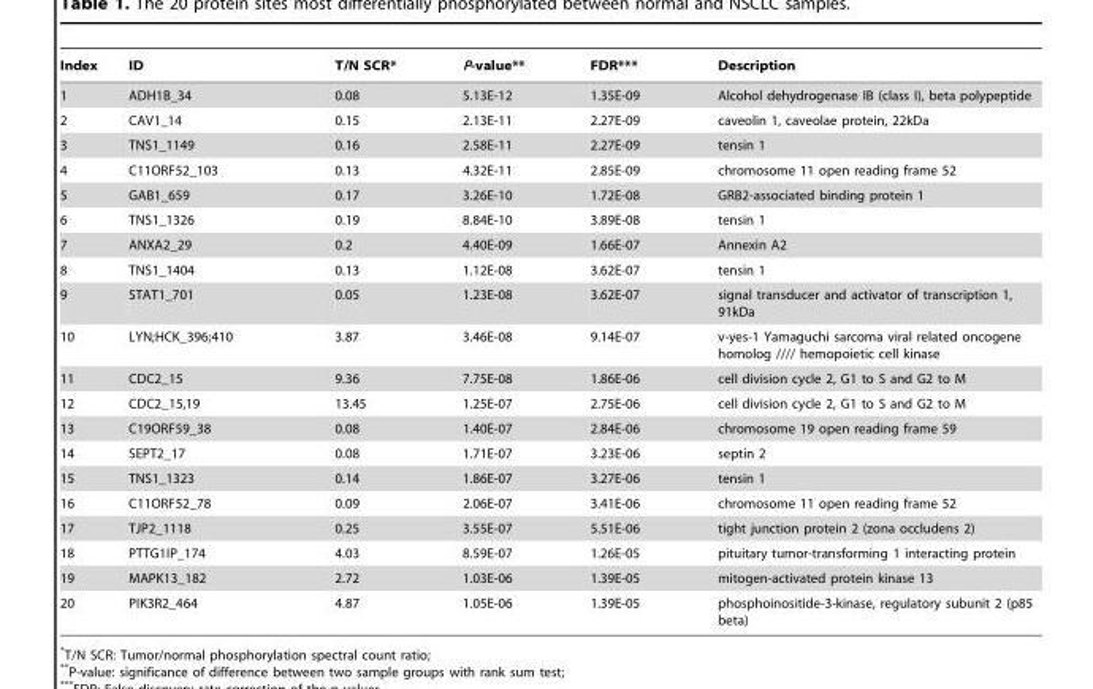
<table><thead><tr><td>Index</td><td>ID</td><td>T/N SCR*</td><td>P-value**</td><td>FDR***</td><td>Description</td></tr></thead><tbody><tr><td>1</td><td>ADH1B_34</td><td>0.08</td><td>5.13E-12</td><td>1.35E-09</td><td>Alcohol dehydrogenase IB (class I), beta polypeptide</td></tr><tr><td>2</td><td>CAV1_14</td><td>0.15</td><td>2.13E-11</td><td>2.27E-09</td><td>caveolin 1, caveolae protein, 22kDa</td></tr><tr><td>3</td><td>TNS1_1149</td><td>0.16</td><td>2.58E-11</td><td>2.27E-09</td><td>tensin 1</td></tr><tr><td>4</td><td>C11ORF52_103</td><td>0.13</td><td>4.32E-11</td><td>2.85E-09</td><td>chromosome 11 open reading frame 52</td></tr><tr><td>5</td><td>GAB1_659</td><td>0.17</td><td>3.26E-10</td><td>1.72E-08</td><td>GRB2-associated binding protein 1</td></tr><tr><td>6</td><td>TNS1_1326</td><td>0.19</td><td>8.84E-10</td><td>3.89E-08</td><td>tensin 1</td></tr><tr><td>7</td><td>ANXA2_29</td><td>0.2</td><td>4.40E-09</td><td>1.66E-07</td><td>Annexin A2</td></tr><tr><td>8</td><td>TNS1_1404</td><td>0.13</td><td>1.12E-08</td><td>3.62E-07</td><td>tensin 1</td></tr><tr><td>9</td><td>STAT1_701</td><td>0.05</td><td>1.23E-08</td><td>3.62E-07</td><td>signal transducer and activator of transcription 1, 91kDa</td></tr><tr><td>10</td><td>LYN;HCK_396;410</td><td>3.87</td><td>3.46E-08</td><td>9.14E-07</td><td>v-yes-1 Yamaguchi sarcoma viral related oncogene homolog //// hemopoietic cell kinase</td></tr><tr><td>11</td><td>CDC2_15</td><td>9.36</td><td>7.75E-08</td><td>1.86E-06</td><td>cell division cycle 2, G1 to S and G2 to M</td></tr><tr><td>12</td><td>CDC2_15,19</td><td>13.45</td><td>1.25E-07</td><td>2.75E-06</td><td>cell division cycle 2, G1 to S and G2 to M</td></tr><tr><td>13</td><td>C19ORF59_38</td><td>0.08</td><td>1.40E-07</td><td>2.84E-06</td><td>chromosome 19 open reading frame 59</td></tr><tr><td>14</td><td>SEPT2_17</td><td>0.08</td><td>1.71E-07</td><td>3.23E-06</td><td>septin 2</td></tr><tr><td>15</td><td>TNS1_1323</td><td>0.14</td><td>1.86E-07</td><td>3.27E-06</td><td>tensin 1</td></tr><tr><td>16</td><td>C11ORF52_78</td><td>0.09</td><td>2.06E-07</td><td>3.41E-06</td><td>chromosome 11 open reading frame 52</td></tr><tr><td>17</td><td>TJP2_1118</td><td>0.25</td><td>3.55E-07</td><td>5.51E-06</td><td>tight junction protein 2 (zona occludens 2)</td></tr><tr><td>18</td><td>PTTG1IP_174</td><td>4.03</td><td>8.59E-07</td><td>1.26E-05</td><td>pituitary tumor-transforming 1 interacting protein</td></tr><tr><td>19</td><td>MAPK13_182</td><td>2.72</td><td>1.03E-06</td><td>1.39E-05</td><td>mitogen-activated protein kinase 13</td></tr><tr><td>20</td><td>PIK3R2_464</td><td>4.87</td><td>1.05E-06</td><td>1.39E-05</td><td>phosphoinositide-3-kinase, regulatory subunit 2 (p85 beta)</td></tr></tbody></table>